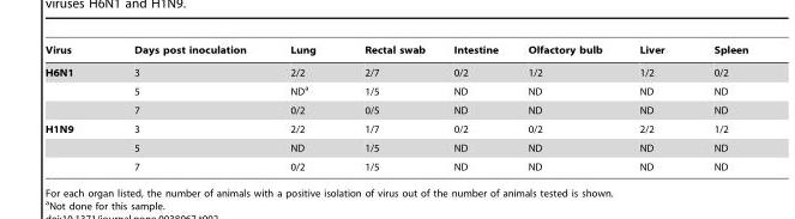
<table><thead><tr><td>Virus</td><td>Days post inoculation</td><td>Lung</td><td>Rectal swab</td><td>Intestine</td><td>Olfactory bulb</td><td>Liver</td><td>Spleen</td></tr></thead><tbody><tr><td rowspan="3">H6N1</td><td>3</td><td>2/2</td><td>2/7</td><td>0/2</td><td>1/2</td><td>1/2</td><td>0/2</td></tr><tr><td>5</td><td>ND<sup>a</sup></td><td>1/5</td><td>ND</td><td>ND</td><td>ND</td><td>ND</td></tr><tr><td>7</td><td>0/2</td><td>0/5</td><td>ND</td><td>ND</td><td>ND</td><td>ND</td></tr><tr><td rowspan="3">H1N9</td><td>3</td><td>2/2</td><td>1/7</td><td>0/2</td><td>0/2</td><td>2/2</td><td>1/2</td></tr><tr><td>5</td><td>ND</td><td>1/5</td><td>ND</td><td>ND</td><td>ND</td><td>ND</td></tr><tr><td>7</td><td>0/2</td><td>1/5</td><td>ND</td><td>ND</td><td>ND</td><td>ND</td></tr></tbody></table>